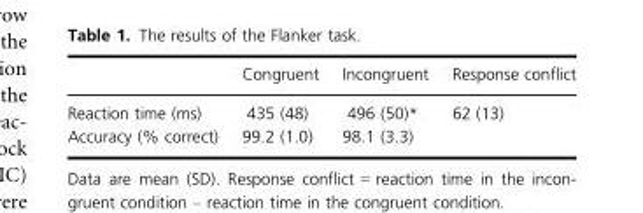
<table><thead><tr><td></td><td>Congruent</td><td>Incongruent</td><td>Response conflict</td></tr></thead><tbody><tr><td>Reaction time (ms)</td><td>435 (48)</td><td>496 (50)*</td><td>62 (13)</td></tr><tr><td>Accuracy (% correct)</td><td>99.2 (1.0)</td><td>98.1 (3.3)</td><td></td></tr></tbody></table>